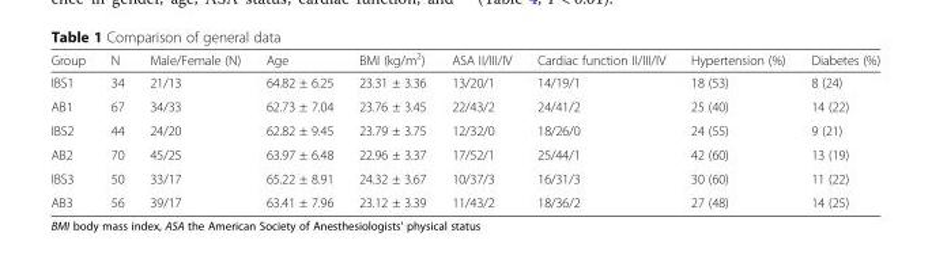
<table><thead><tr><td>Group</td><td>N</td><td>Male/Female (N)</td><td>Age</td><td>BMI (kg/m<sup>2</sup>)</td><td>ASA II/III/IV</td><td>Cardiac function II/III/IV</td><td>Hypertension (%)</td><td>Diabetes (%)</td></tr></thead><tbody><tr><td>IBS1</td><td>34</td><td>21/13</td><td>64.82 ± 6.25</td><td>23.31 ± 3.36</td><td>13/20/1</td><td>14/19/1</td><td>18 (53)</td><td>8 (24)</td></tr><tr><td>AB1</td><td>67</td><td>34/33</td><td>62.73 ± 7.04</td><td>23.76 ± 3.45</td><td>22/43/2</td><td>24/41/2</td><td>25 (40)</td><td>14 (22)</td></tr><tr><td>IBS2</td><td>44</td><td>24/20</td><td>62.82 ± 9.45</td><td>23.79 ± 3.75</td><td>12/32/0</td><td>18/26/0</td><td>24 (55)</td><td>9 (21)</td></tr><tr><td>AB2</td><td>70</td><td>45/25</td><td>63.97 ± 6.48</td><td>22.96 ± 3.37</td><td>17/52/1</td><td>25/44/1</td><td>42 (60)</td><td>13 (19)</td></tr><tr><td>IBS3</td><td>50</td><td>33/17</td><td>65.22 ± 8.91</td><td>24.32 ± 3.67</td><td>10/37/3</td><td>16/31/3</td><td>30 (60)</td><td>11 (22)</td></tr><tr><td>AB3</td><td>56</td><td>39/17</td><td>63.41 ± 7.96</td><td>23.12 ± 3.39</td><td>11/43/2</td><td>18/36/2</td><td>27 (48)</td><td>14 (25)</td></tr></tbody></table>